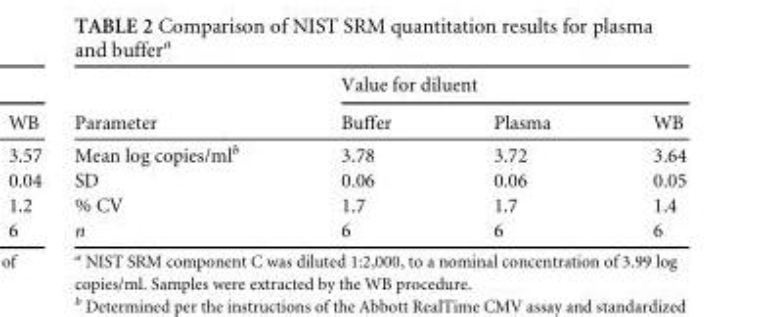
<table><thead><tr><td rowspan="2">Parameter</td><td colspan="3">Value for diluent</td></tr><tr><td>Buffer</td><td>Plasma</td><td>WB</td></tr></thead><tbody><tr><td>Mean log copies/ml<sup>b</sup></td><td>3.78</td><td>3.72</td><td>3.64</td></tr><tr><td>SD</td><td>0.06</td><td>0.06</td><td>0.05</td></tr><tr><td>% CV</td><td>1.7</td><td>1.7</td><td>1.4</td></tr><tr><td>n</td><td>6</td><td>6</td><td>6</td></tr></tbody></table>